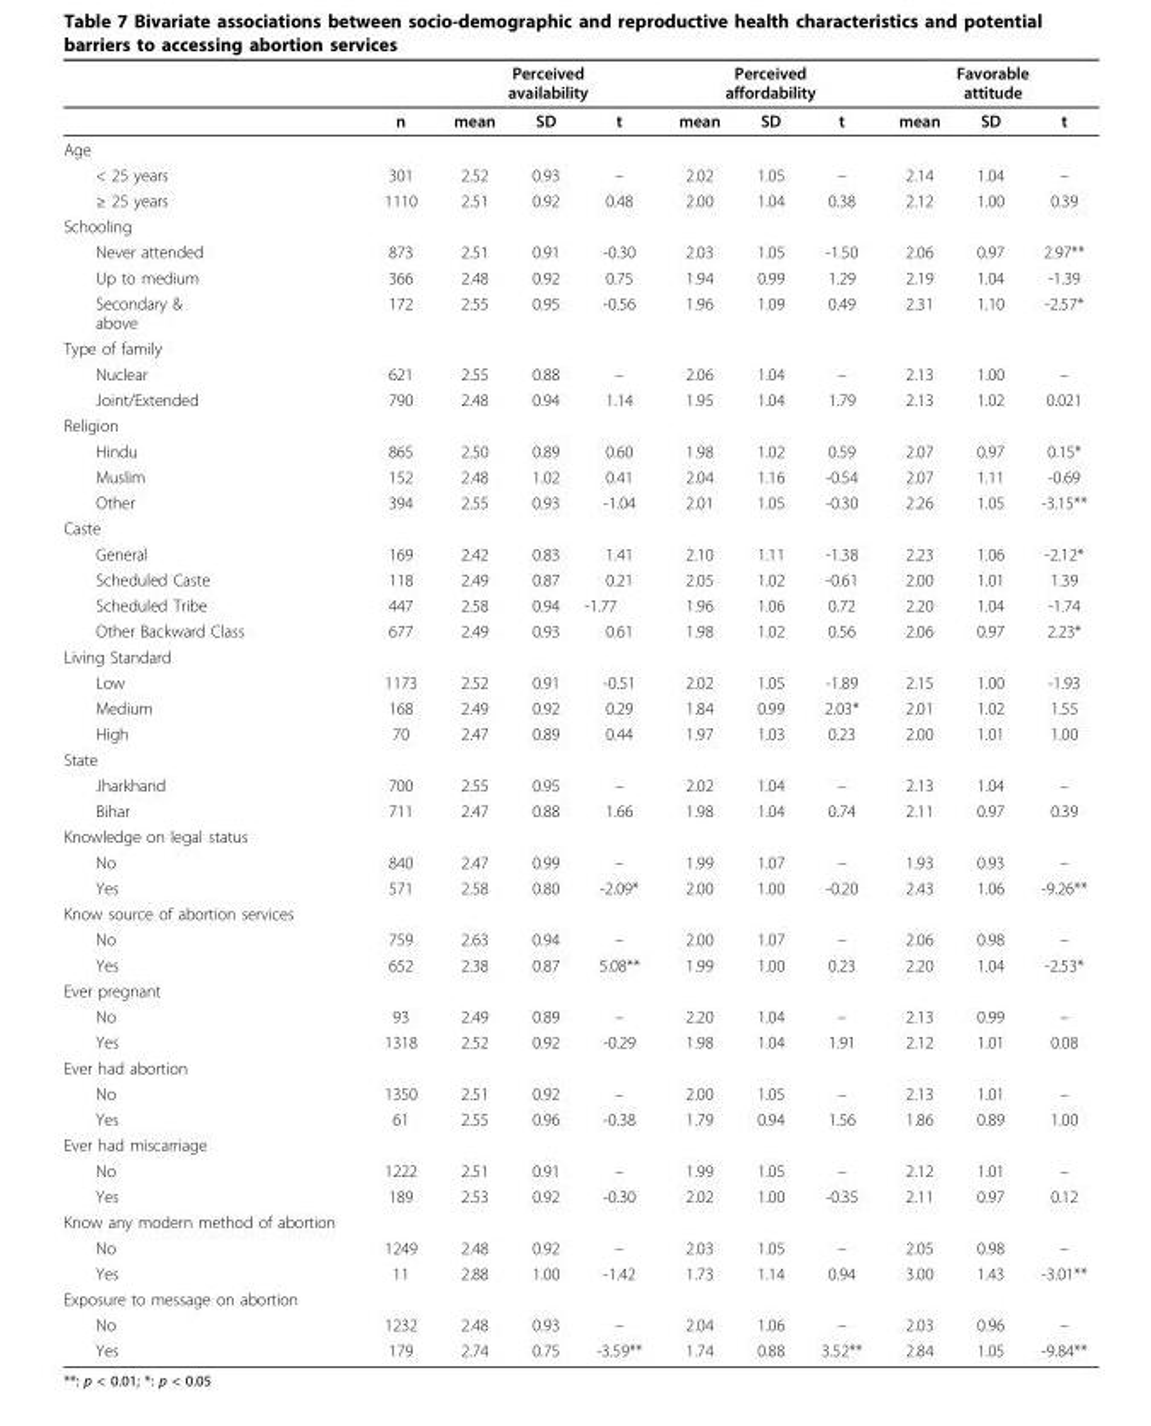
<table><thead><tr><td rowspan="2"></td><td rowspan="2">n</td><td colspan="3">Perceived availability</td><td colspan="3">Perceived affordability</td><td colspan="3">Favorable attitude</td></tr><tr><td>mean</td><td>SD</td><td>t</td><td>mean</td><td>SD</td><td>t</td><td>mean</td><td>SD</td><td>t</td></tr></thead><tbody><tr><td colspan="11">Age</td></tr><tr><td>&lt; 25 years</td><td>301</td><td>2.52</td><td>0.93</td><td>–</td><td>2.02</td><td>1.05</td><td>–</td><td>2.14</td><td>1.04</td><td>–</td></tr><tr><td>≥ 25 years</td><td>1110</td><td>2.51</td><td>0.92</td><td>0.48</td><td>2.00</td><td>1.04</td><td>0.38</td><td>2.12</td><td>1.00</td><td>0.39</td></tr><tr><td colspan="11">Schooling</td></tr><tr><td>Never attended</td><td>873</td><td>2.51</td><td>0.91</td><td>-0.30</td><td>2.03</td><td>1.05</td><td>-1.50</td><td>2.06</td><td>0.97</td><td>2.97**</td></tr><tr><td>Up to medium</td><td>366</td><td>2.48</td><td>0.92</td><td>0.75</td><td>1.94</td><td>0.99</td><td>1.29</td><td>2.19</td><td>1.04</td><td>-1.39</td></tr><tr><td>Secondary &amp; above</td><td>172</td><td>2.55</td><td>0.95</td><td>-0.56</td><td>1.96</td><td>1.09</td><td>0.49</td><td>2.31</td><td>1.10</td><td>-2.57*</td></tr><tr><td colspan="11">Type of family</td></tr><tr><td>Nuclear</td><td>621</td><td>2.55</td><td>0.88</td><td>–</td><td>2.06</td><td>1.04</td><td>–</td><td>2.13</td><td>1.00</td><td>–</td></tr><tr><td>Joint/Extended</td><td>790</td><td>2.48</td><td>0.94</td><td>1.14</td><td>1.95</td><td>1.04</td><td>1.79</td><td>2.13</td><td>1.02</td><td>0.021</td></tr><tr><td colspan="11">Religion</td></tr><tr><td>Hindu</td><td>865</td><td>2.50</td><td>0.89</td><td>0.60</td><td>1.98</td><td>1.02</td><td>0.59</td><td>2.07</td><td>0.97</td><td>0.15*</td></tr><tr><td>Muslim</td><td>152</td><td>2.48</td><td>1.02</td><td>0.41</td><td>2.04</td><td>1.16</td><td>-0.54</td><td>2.07</td><td>1.11</td><td>-0.69</td></tr><tr><td>Other</td><td>394</td><td>2.55</td><td>0.93</td><td>-1.04</td><td>2.01</td><td>1.05</td><td>-0.30</td><td>2.26</td><td>1.05</td><td>-3.15**</td></tr><tr><td colspan="11">Caste</td></tr><tr><td>General</td><td>169</td><td>2.42</td><td>0.83</td><td>1.41</td><td>2.10</td><td>1.11</td><td>-1.38</td><td>2.23</td><td>1.06</td><td>-2.12*</td></tr><tr><td>Scheduled Caste</td><td>118</td><td>2.49</td><td>0.87</td><td>0.21</td><td>2.05</td><td>1.02</td><td>-0.61</td><td>2.00</td><td>1.01</td><td>1.39</td></tr><tr><td>Scheduled Tribe</td><td>447</td><td>2.58</td><td>0.94</td><td>-1.77</td><td>1.96</td><td>1.06</td><td>0.72</td><td>2.20</td><td>1.04</td><td>-1.74</td></tr><tr><td>Other Backward Class</td><td>677</td><td>2.49</td><td>0.93</td><td>0.61</td><td>1.98</td><td>1.02</td><td>0.56</td><td>2.06</td><td>0.97</td><td>2.23*</td></tr><tr><td colspan="11">Living Standard</td></tr><tr><td>Low</td><td>1173</td><td>2.52</td><td>0.91</td><td>-0.51</td><td>2.02</td><td>1.05</td><td>-1.89</td><td>2.15</td><td>1.00</td><td>-1.93</td></tr><tr><td>Medium</td><td>168</td><td>2.49</td><td>0.92</td><td>0.29</td><td>1.84</td><td>0.99</td><td>2.03*</td><td>2.01</td><td>1.02</td><td>1.55</td></tr><tr><td>High</td><td>70</td><td>2.47</td><td>0.89</td><td>0.44</td><td>1.97</td><td>1.03</td><td>0.23</td><td>2.00</td><td>1.01</td><td>1.00</td></tr><tr><td colspan="11">State</td></tr><tr><td>Jharkhand</td><td>700</td><td>2.55</td><td>0.95</td><td>–</td><td>2.02</td><td>1.04</td><td>–</td><td>2.13</td><td>1.04</td><td>–</td></tr><tr><td>Bihar</td><td>711</td><td>2.47</td><td>0.88</td><td>1.66</td><td>1.98</td><td>1.04</td><td>0.74</td><td>2.11</td><td>0.97</td><td>0.39</td></tr><tr><td colspan="11">Knowledge on legal status</td></tr><tr><td>No</td><td>840</td><td>2.47</td><td>0.99</td><td>–</td><td>1.99</td><td>1.07</td><td>–</td><td>1.93</td><td>0.93</td><td>–</td></tr><tr><td>Yes</td><td>571</td><td>2.58</td><td>0.80</td><td>-2.09*</td><td>2.00</td><td>1.00</td><td>-0.20</td><td>2.43</td><td>1.06</td><td>-9.26**</td></tr><tr><td colspan="11">Know source of abortion services</td></tr><tr><td>No</td><td>759</td><td>2.63</td><td>0.94</td><td>–</td><td>2.00</td><td>1.07</td><td>–</td><td>2.06</td><td>0.98</td><td>–</td></tr><tr><td>Yes</td><td>652</td><td>2.38</td><td>0.87</td><td>5.08**</td><td>1.99</td><td>1.00</td><td>0.23</td><td>2.20</td><td>1.04</td><td>-2.53*</td></tr><tr><td colspan="11">Ever pregnant</td></tr><tr><td>No</td><td>93</td><td>2.49</td><td>0.89</td><td>–</td><td>2.20</td><td>1.04</td><td>–</td><td>2.13</td><td>0.99</td><td>–</td></tr><tr><td>Yes</td><td>1318</td><td>2.52</td><td>0.92</td><td>-0.29</td><td>1.98</td><td>1.04</td><td>1.91</td><td>2.12</td><td>1.01</td><td>0.08</td></tr><tr><td colspan="11">Ever had abortion</td></tr><tr><td>No</td><td>1350</td><td>2.51</td><td>0.92</td><td>–</td><td>2.00</td><td>1.05</td><td>–</td><td>2.13</td><td>1.01</td><td>–</td></tr><tr><td>Yes</td><td>61</td><td>2.55</td><td>0.96</td><td>-0.38</td><td>1.79</td><td>0.94</td><td>1.56</td><td>1.86</td><td>0.89</td><td>1.00</td></tr><tr><td colspan="11">Ever had miscarriage</td></tr><tr><td>No</td><td>1222</td><td>2.51</td><td>0.91</td><td>–</td><td>1.99</td><td>1.05</td><td>–</td><td>2.12</td><td>1.01</td><td>–</td></tr><tr><td>Yes</td><td>189</td><td>2.53</td><td>0.92</td><td>-0.30</td><td>2.02</td><td>1.00</td><td>-0.35</td><td>2.11</td><td>0.97</td><td>0.12</td></tr><tr><td colspan="11">Know any modern method of abortion</td></tr><tr><td>No</td><td>1249</td><td>2.48</td><td>0.92</td><td>–</td><td>2.03</td><td>1.05</td><td>–</td><td>2.05</td><td>0.98</td><td>–</td></tr><tr><td>Yes</td><td>11</td><td>2.88</td><td>1.00</td><td>-1.42</td><td>1.73</td><td>1.14</td><td>0.94</td><td>3.00</td><td>1.43</td><td>-3.01**</td></tr><tr><td colspan="11">Exposure to message on abortion</td></tr><tr><td>No</td><td>1232</td><td>2.48</td><td>0.93</td><td>–</td><td>2.04</td><td>1.06</td><td>–</td><td>2.03</td><td>0.96</td><td>–</td></tr><tr><td>Yes</td><td>179</td><td>2.74</td><td>0.75</td><td>-3.59**</td><td>1.74</td><td>0.88</td><td>3.52**</td><td>2.84</td><td>1.05</td><td>-9.84**</td></tr></tbody></table>